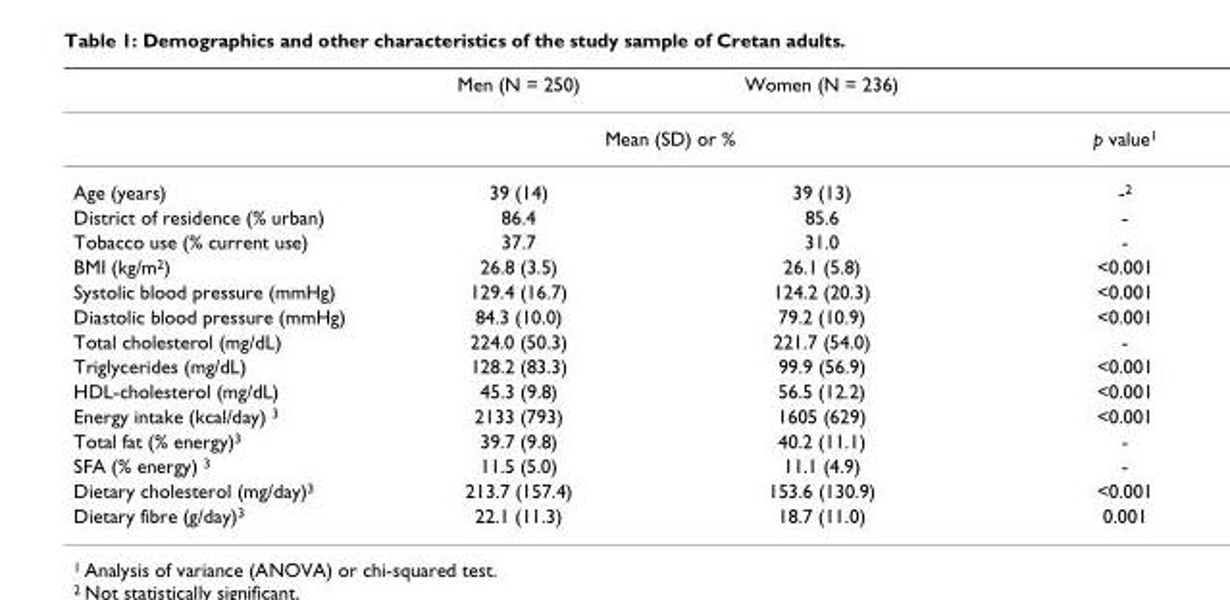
<table><thead><tr><td></td><td>Men (N = 250)</td><td>Women (N = 236)</td><td></td></tr></thead><tbody><tr><td></td><td colspan="2">Mean (SD) or %</td><td>p value<sup>1</sup></td></tr><tr><td>Age (years)</td><td>39 (14)</td><td>39 (13)</td><td>-<sup>2</sup></td></tr><tr><td>District of residence (% urban)</td><td>86.4</td><td>85.6</td><td>-</td></tr><tr><td>Tobacco use (% current use)</td><td>37.7</td><td>31.0</td><td>-</td></tr><tr><td>BMI (kg/m<sup>2</sup>)</td><td>26.8 (3.5)</td><td>26.1 (5.8)</td><td>&lt;0.001</td></tr><tr><td>Systolic blood pressure (mmHg)</td><td>129.4 (16.7)</td><td>124.2 (20.3)</td><td>&lt;0.001</td></tr><tr><td>Diastolic blood pressure (mmHg)</td><td>84.3 (10.0)</td><td>79.2 (10.9)</td><td>&lt;0.001</td></tr><tr><td>Total cholesterol (mg/dL)</td><td>224.0 (50.3)</td><td>221.7 (54.0)</td><td>-</td></tr><tr><td>Triglycerides (mg/dL)</td><td>128.2 (83.3)</td><td>99.9 (56.9)</td><td>&lt;0.001</td></tr><tr><td>HDL-cholesterol (mg/dL)</td><td>45.3 (9.8)</td><td>56.5 (12.2)</td><td>&lt;0.001</td></tr><tr><td>Energy intake (kcal/day) <sup>3</sup></td><td>2133 (793)</td><td>1605 (629)</td><td>&lt;0.001</td></tr><tr><td>Total fat (% energy)<sup>3</sup></td><td>39.7 (9.8)</td><td>40.2 (11.1)</td><td>-</td></tr><tr><td>SFA (% energy) <sup>3</sup></td><td>11.5 (5.0)</td><td>11.1 (4.9)</td><td>-</td></tr><tr><td>Dietary cholesterol (mg/day)<sup>3</sup></td><td>213.7 (157.4)</td><td>153.6 (130.9)</td><td>&lt;0.001</td></tr><tr><td>Dietary fibre (g/day)<sup>3</sup></td><td>22.1 (11.3)</td><td>18.7 (11.0)</td><td>0.001</td></tr></tbody></table>